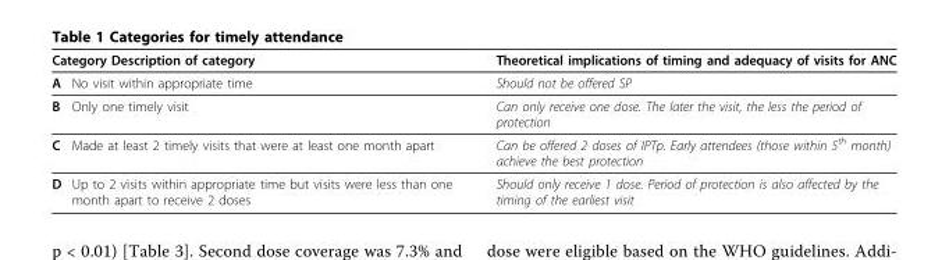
<table><thead><tr><td colspan="2">Category Description of category</td><td rowspan="2">Theoretical implications of timing and adequacy of visits for ANC Should not be offered SP</td></tr><tr><td>A</td><td>No visit within appropriate time</td></tr></thead><tbody><tr><td>B</td><td>Only one timely visit</td><td>Can only receive one dose. The later the visit, the less the period of protection</td></tr><tr><td>C</td><td>Made at least 2 timely visits that were at least one month apart</td><td>Can be offered 2 doses of IPTp. Early attendees (those within 5<sup>th</sup> month) achieve the best protection</td></tr><tr><td>D</td><td>Up to 2 visits within appropriate time but visits were less than one month apart to receive 2 doses</td><td>Should only receive 1 dose. Period of protection is also affected by the timing of the earliest visit</td></tr></tbody></table>